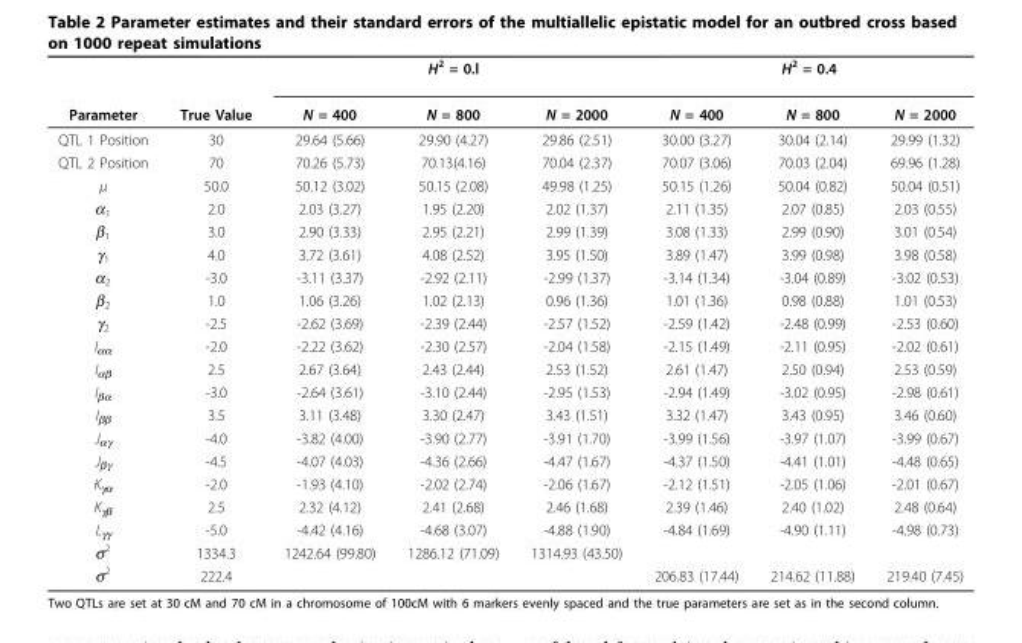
<table><thead><tr><td rowspan="2">Parameter</td><td rowspan="2">True Value</td><td colspan="3">H<sup>2</sup> = 0.l</td><td colspan="3">H<sup>2</sup> = 0.4</td></tr><tr><td>N = 400</td><td>N = 800</td><td>N = 2000</td><td>N = 400</td><td>N = 800</td><td>N = 2000</td></tr></thead><tbody><tr><td>QTL 1 Position</td><td>30</td><td>29.64 (5.66)</td><td>29.90 (4.27)</td><td>29.86 (2.51)</td><td>30.00 (3.27)</td><td>30.04 (2.14)</td><td>29.99 (1.32)</td></tr><tr><td>QTL 2 Position</td><td>70</td><td>70.26 (5.73)</td><td>70.13(4.16)</td><td>70.04 (2.37)</td><td>70.07 (3.06)</td><td>70.03 (2.04)</td><td>69.96 (1.28)</td></tr><tr><td>μ</td><td>50.0</td><td>50.12 (3.02)</td><td>50.15 (2.08)</td><td>49.98 (1.25)</td><td>50.15 (1.26)</td><td>50.04 (0.82)</td><td>50.04 (0.51)</td></tr><tr><td>α<sub>1</sub></td><td>2.0</td><td>2.03 (3.27)</td><td>1.95 (2.20)</td><td>2.02 (1.37)</td><td>2.11 (1.35)</td><td>2.07 (0.85)</td><td>2.03 (0.55)</td></tr><tr><td>β<sub>1</sub></td><td>3.0</td><td>2.90 (3.33)</td><td>2.95 (2.21)</td><td>2.99 (1.39)</td><td>3.08 (1.33)</td><td>2.99 (0.90)</td><td>3.01 (0.54)</td></tr><tr><td>γ<sub>1</sub></td><td>4.0</td><td>3.72 (3.61)</td><td>4.08 (2.52)</td><td>3.95 (1.50)</td><td>3.89 (1.47)</td><td>3.99 (0.98)</td><td>3.98 (0.58)</td></tr><tr><td>α<sub>2</sub></td><td>-3.0</td><td>-3.11 (3.37)</td><td>-2.92 (2.11)</td><td>-2.99 (1.37)</td><td>-3.14 (1.34)</td><td>-3.04 (0.89)</td><td>-3.02 (0.53)</td></tr><tr><td>β<sub>2</sub></td><td>1.0</td><td>1.06 (3.26)</td><td>1.02 (2.13)</td><td>0.96 (1.36)</td><td>1.01 (1.36)</td><td>0.98 (0.88)</td><td>1.01 (0.53)</td></tr><tr><td>γ<sub>2</sub></td><td>-2.5</td><td>-2.62 (3.69)</td><td>-2.39 (2.44)</td><td>-2.57 (1.52)</td><td>-2.59 (1.42)</td><td>-2.48 (0.99)</td><td>-2.53 (0.60)</td></tr><tr><td>I<sub>αα</sub></td><td>-2.0</td><td>-2.22 (3.62)</td><td>-2.30 (2.57)</td><td>-2.04 (1.58)</td><td>-2.15 (1.49)</td><td>-2.11 (0.95)</td><td>-2.02 (0.61)</td></tr><tr><td>I<sub>αβ</sub></td><td>2.5</td><td>2.67 (3.64)</td><td>2.43 (2.44)</td><td>2.53 (1.52)</td><td>2.61 (1.47)</td><td>2.50 (0.94)</td><td>2.53 (0.59)</td></tr><tr><td>I<sub>βα</sub></td><td>-3.0</td><td>-2.64 (3.61)</td><td>-3.10 (2.44)</td><td>-2.95 (1.53)</td><td>-2.94 (1.49)</td><td>-3.02 (0.95)</td><td>-2.98 (0.61)</td></tr><tr><td>I<sub>ββ</sub></td><td>3.5</td><td>3.11 (3.48)</td><td>3.30 (2.47)</td><td>3.43 (1.51)</td><td>3.32 (1.47)</td><td>3.43 (0.95)</td><td>3.46 (0.60)</td></tr><tr><td>J<sub>αγ</sub></td><td>-4.0</td><td>-3.82 (4.00)</td><td>-3.90 (2.77)</td><td>-3.91 (1.70)</td><td>-3.99 (1.56)</td><td>-3.97 (1.07)</td><td>-3.99 (0.67)</td></tr><tr><td>J<sub>βγ</sub></td><td>-4.5</td><td>-4.07 (4.03)</td><td>-4.36 (2.66)</td><td>-4.47 (1.67)</td><td>-4.37 (1.50)</td><td>-4.41 (1.01)</td><td>-4.48 (0.65)</td></tr><tr><td>K<sub>γα</sub></td><td>-2.0</td><td>-1.93 (4.10)</td><td>-2.02 (2.74)</td><td>-2.06 (1.67)</td><td>-2.12 (1.51)</td><td>-2.05 (1.06)</td><td>-2.01 (0.67)</td></tr><tr><td>K<sub>γβ</sub></td><td>2.5</td><td>2.32 (4.12)</td><td>2.41 (2.68)</td><td>2.46 (1.68)</td><td>2.39 (1.46)</td><td>2.40 (1.02)</td><td>2.48 (0.64)</td></tr><tr><td>L<sub>γγ</sub></td><td>-5.0</td><td>-4.42 (4.16)</td><td>-4.68 (3.07)</td><td>-4.88 (1.90)</td><td>-4.84 (1.69)</td><td>-4.90 (1.11)</td><td>-4.98 (0.73)</td></tr><tr><td>σ<sup>2</sup></td><td>1334.3</td><td>1242.64 (99.80)</td><td>1286.12 (71.09)</td><td>1314.93 (43.50)</td><td></td><td></td><td></td></tr><tr><td>σ<sup>2</sup></td><td>222.4</td><td></td><td></td><td></td><td>206.83 (17.44)</td><td>214.62 (11.88)</td><td>219.40 (7.45)</td></tr></tbody></table>